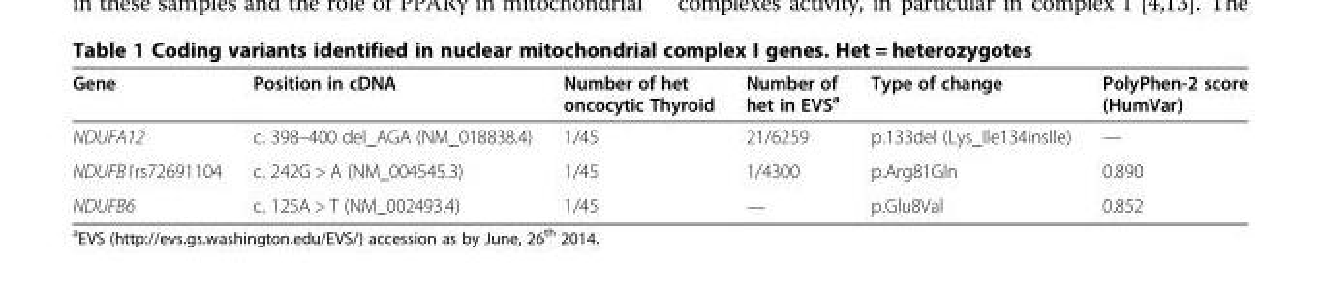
<table><thead><tr><td>Gene</td><td>Position in cDNA</td><td>Number of het oncocytic Thyroid</td><td>Number of het in EVS<sup>a</sup></td><td>Type of change</td><td>PolyPhen-2 score (HumVar)</td></tr></thead><tbody><tr><td>NDUFA12</td><td>c. 398–400 del_AGA (NM_018838.4)</td><td>1/45</td><td>21/6259</td><td>p.133del (Lys_Ile134insIle)</td><td>—</td></tr><tr><td>NDUFB1rs72691104</td><td>c. 242G &gt; A (NM_004545.3)</td><td>1/45</td><td>1/4300</td><td>p.Arg81Gln</td><td>0.890</td></tr><tr><td>NDUFB6</td><td>c. 125A &gt; T (NM_002493.4)</td><td>1/45</td><td>—</td><td>p.Glu8Val</td><td>0.852</td></tr></tbody></table>